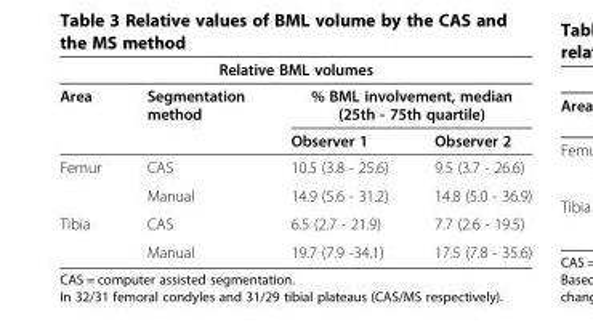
<table><thead><tr><td colspan="4">Relative BML volumes</td></tr><tr><td rowspan="2">Area</td><td rowspan="2">Segmentation method</td><td colspan="2">% BML involvement, median (25th - 75th quartile)</td></tr><tr><td>Observer 1</td><td>Observer 2</td></tr></thead><tbody><tr><td rowspan="2">Femur</td><td>CAS</td><td>10.5 (3.8 - 25.6)</td><td>9.5 (3.7 - 26.6)</td></tr><tr><td>Manual</td><td>14.9 (5.6 - 31.2)</td><td>14.8 (5.0 - 36.9)</td></tr><tr><td rowspan="2">Tibia</td><td>CAS</td><td>6.5 (2.7 - 21.9)</td><td>7.7 (2.6 - 19.5)</td></tr><tr><td>Manual</td><td>19.7 (7.9 -34.1)</td><td>17.5 (7.8 - 35.6)</td></tr></tbody></table>